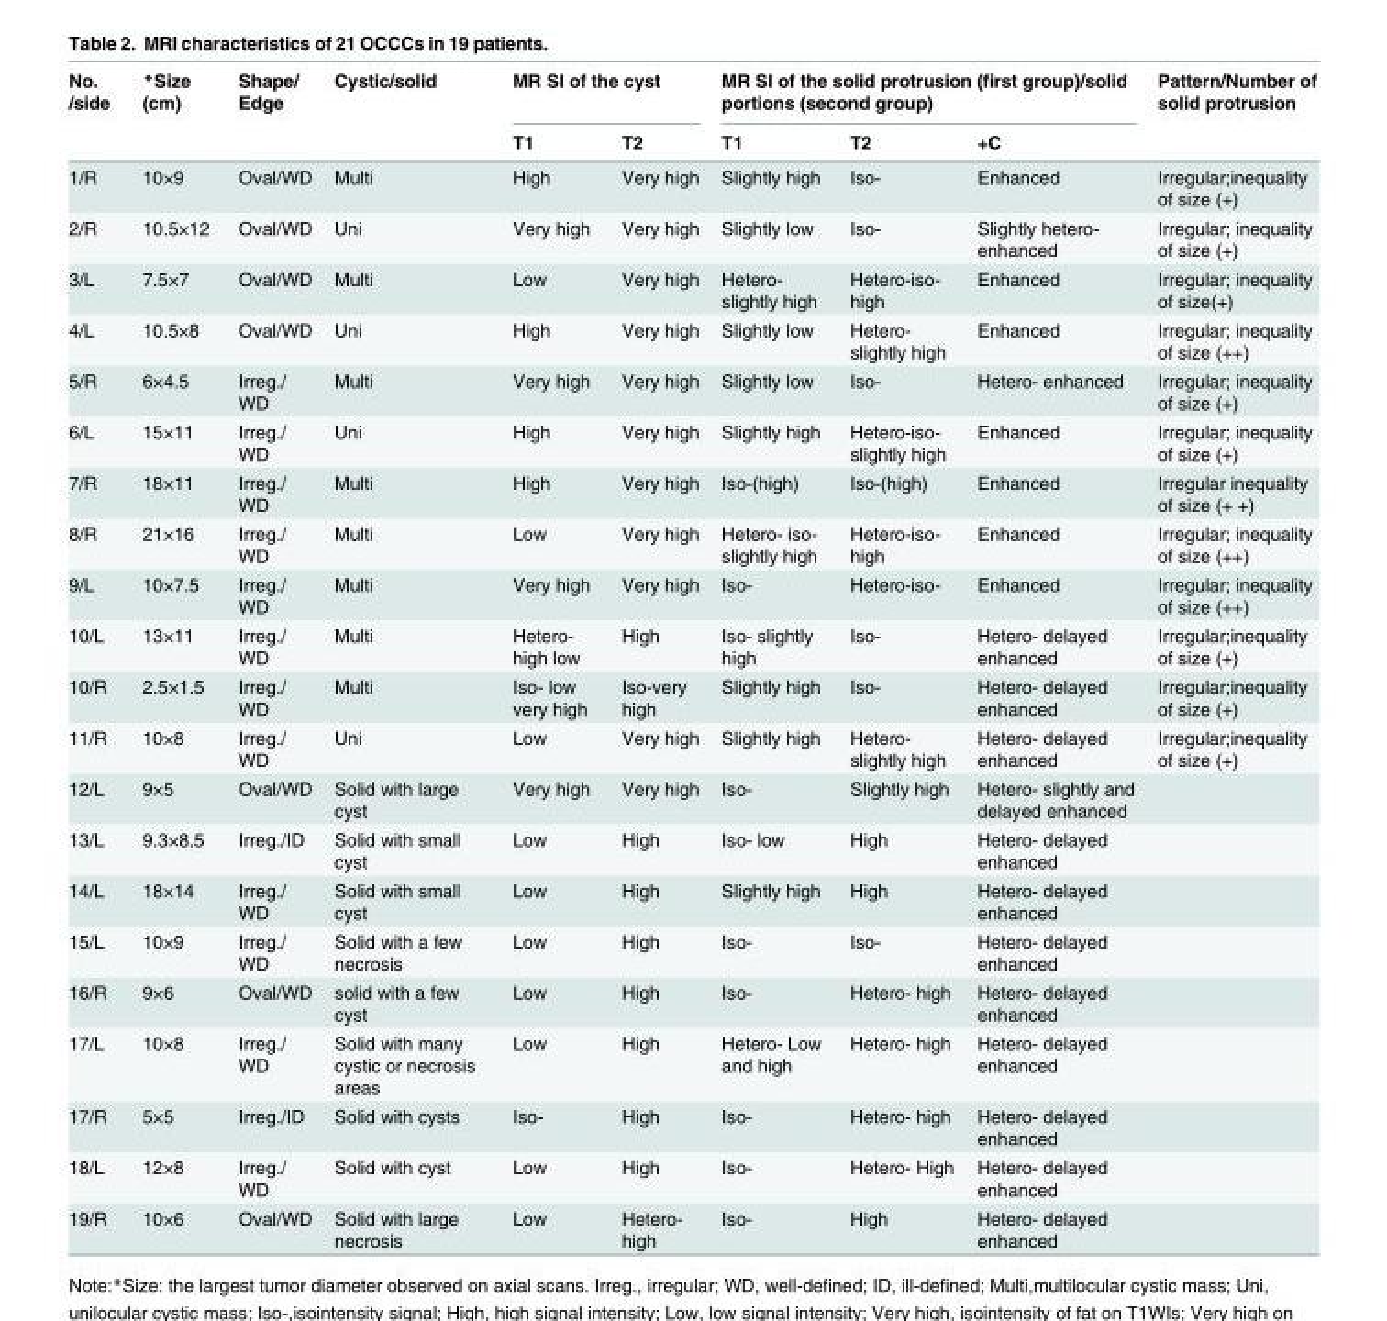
<table><thead><tr><td rowspan="2">No. /side</td><td rowspan="2">*Size (cm)</td><td rowspan="2">Shape/ Edge</td><td rowspan="2">Cystic/solid</td><td colspan="2">MR SI of the cyst</td><td colspan="3">MR SI of the solid protrusion (first group)/solid portions (second group)</td><td rowspan="2">Pattern/Number of solid protrusion</td></tr><tr><td>T1</td><td>T2</td><td>T1</td><td>T2</td><td>+C</td></tr></thead><tbody><tr><td>1/R</td><td>10×9</td><td>Oval/WD</td><td>Multi</td><td>High</td><td>Very high</td><td>Slightly high</td><td>Iso-</td><td>Enhanced</td><td>Irregular;inequality of size (+)</td></tr><tr><td>2/R</td><td>10.5×12</td><td>Oval/WD</td><td>Uni</td><td>Very high</td><td>Very high</td><td>Slightly low</td><td>Iso-</td><td>Slightly hetero- enhanced</td><td>Irregular; inequality of size (+)</td></tr><tr><td>3/L</td><td>7.5×7</td><td>Oval/WD</td><td>Multi</td><td>Low</td><td>Very high</td><td>Hetero- slightly high</td><td>Hetero-iso- high</td><td>Enhanced</td><td>Irregular; inequality of size(+)</td></tr><tr><td>4/L</td><td>10.5×8</td><td>Oval/WD</td><td>Uni</td><td>High</td><td>Very high</td><td>Slightly low</td><td>Hetero- slightly high</td><td>Enhanced</td><td>Irregular; inequality of size (++)</td></tr><tr><td>5/R</td><td>6×4.5</td><td>Irreg./ WD</td><td>Multi</td><td>Very high</td><td>Very high</td><td>Slightly low</td><td>Iso-</td><td>Hetero- enhanced</td><td>Irregular; inequality of size (+)</td></tr><tr><td>6/L</td><td>15×11</td><td>Irreg./ WD</td><td>Uni</td><td>High</td><td>Very high</td><td>Slightly high</td><td>Hetero-iso- slightly high</td><td>Enhanced</td><td>Irregular; inequality of size (+)</td></tr><tr><td>7/R</td><td>18×11</td><td>Irreg./ WD</td><td>Multi</td><td>High</td><td>Very high</td><td>Iso-(high)</td><td>Iso-(high)</td><td>Enhanced</td><td>Irregular inequality of size (+ +)</td></tr><tr><td>8/R</td><td>21×16</td><td>Irreg./ WD</td><td>Multi</td><td>Low</td><td>Very high</td><td>Hetero- iso- slightly high</td><td>Hetero-iso- high</td><td>Enhanced</td><td>Irregular; inequality of size (++)</td></tr><tr><td>9/L</td><td>10×7.5</td><td>Irreg./ WD</td><td>Multi</td><td>Very high</td><td>Very high</td><td>Iso-</td><td>Hetero-iso-</td><td>Enhanced</td><td>Irregular; inequality of size (++)</td></tr><tr><td>10/L</td><td>13×11</td><td>Irreg./ WD</td><td>Multi</td><td>Hetero- high low</td><td>High</td><td>Iso- slightly high</td><td>Iso-</td><td>Hetero- delayed enhanced</td><td>Irregular;inequality of size (+)</td></tr><tr><td>10/R</td><td>2.5×1.5</td><td>Irreg./ WD</td><td>Multi</td><td>Iso- low very high</td><td>Iso-very high</td><td>Slightly high</td><td>Iso-</td><td>Hetero- delayed enhanced</td><td>Irregular;inequality of size (+)</td></tr><tr><td>11/R</td><td>10×8</td><td>Irreg./ WD</td><td>Uni</td><td>Low</td><td>Very high</td><td>Slightly high</td><td>Hetero- slightly high</td><td>Hetero- delayed enhanced</td><td>Irregular;inequality of size (+)</td></tr><tr><td>12/L</td><td>9×5</td><td>Oval/WD</td><td>Solid with large cyst</td><td>Very high</td><td>Very high</td><td>Iso-</td><td>Slightly high</td><td>Hetero- slightly and delayed enhanced</td><td></td></tr><tr><td>13/L</td><td>9.3×8.5</td><td>Irreg./ID</td><td>Solid with small cyst</td><td>Low</td><td>High</td><td>Iso- low</td><td>High</td><td>Hetero- delayed enhanced</td><td></td></tr><tr><td>14/L</td><td>18×14</td><td>Irreg./ WD</td><td>Solid with small cyst</td><td>Low</td><td>High</td><td>Slightly high</td><td>High</td><td>Hetero- delayed enhanced</td><td></td></tr><tr><td>15/L</td><td>10×9</td><td>Irreg./ WD</td><td>Solid with a few necrosis</td><td>Low</td><td>High</td><td>Iso-</td><td>Iso-</td><td>Hetero- delayed enhanced</td><td></td></tr><tr><td>16/R</td><td>9×6</td><td>Oval/WD</td><td>solid with a few cyst</td><td>Low</td><td>High</td><td>Iso-</td><td>Hetero- high</td><td>Hetero- delayed enhanced</td><td></td></tr><tr><td>17/L</td><td>10×8</td><td>Irreg./ WD</td><td>Solid with many cystic or necrosis areas</td><td>Low</td><td>High</td><td>Hetero- Low and high</td><td>Hetero- high</td><td>Hetero- delayed enhanced</td><td></td></tr><tr><td>17/R</td><td>5×5</td><td>Irreg./ID</td><td>Solid with cysts</td><td>Iso-</td><td>High</td><td>Iso-</td><td>Hetero- high</td><td>Hetero- delayed enhanced</td><td></td></tr><tr><td>18/L</td><td>12×8</td><td>Irreg./ WD</td><td>Solid with cyst</td><td>Low</td><td>High</td><td>Iso-</td><td>Hetero- High</td><td>Hetero- delayed enhanced</td><td></td></tr><tr><td>19/R</td><td>10×6</td><td>Oval/WD</td><td>Solid with large necrosis</td><td>Low</td><td>Hetero- high</td><td>Iso-</td><td>High</td><td>Hetero- delayed enhanced</td><td></td></tr></tbody></table>